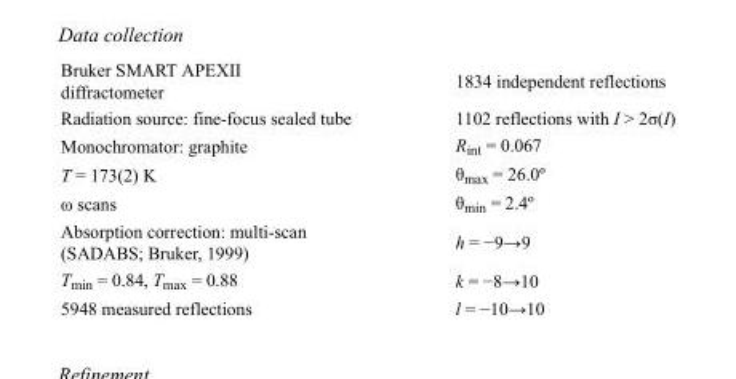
<table><tbody><tr><td>Bruker SMART APEXII diffractometer</td><td>1834 independent reflections</td></tr><tr><td>Radiation source: fine-focus sealed tube</td><td>1102 reflections with I &gt; 2σ(I)</td></tr><tr><td>Monochromator: graphite</td><td>R<sub>int</sub> = 0.067</td></tr><tr><td>T = 173(2) K</td><td>θ<sub>max</sub> = 26.0º</td></tr><tr><td>ω scans</td><td>θ<sub>min</sub> = 2.4º</td></tr><tr><td>Absorption correction: multi-scan (SADABS; Bruker, 1999)</td><td>h = −9→9</td></tr><tr><td>T<sub>min</sub> = 0.84, T<sub>max</sub> = 0.88</td><td>k = −8→10</td></tr><tr><td>5948 measured reflections</td><td>l = −10→10</td></tr></tbody></table>